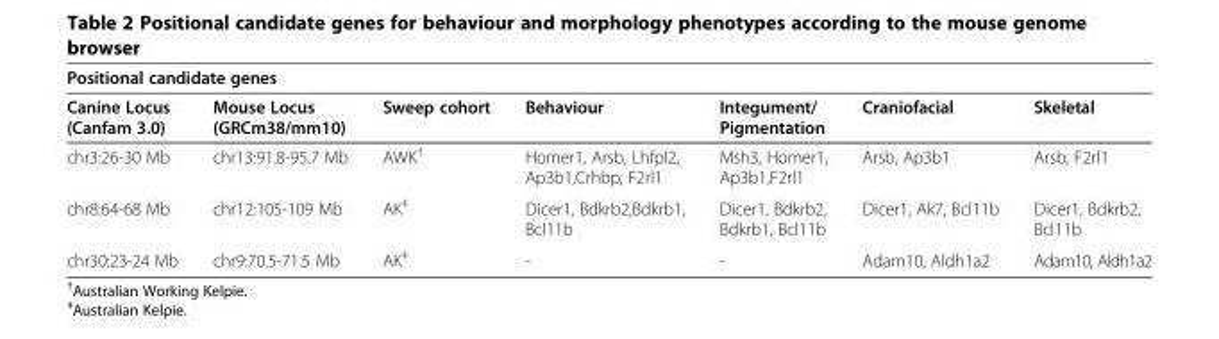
<table><thead><tr><td colspan="7">Positional candidate genes</td></tr><tr><td>Canine Locus (Canfam 3.0)</td><td>Mouse Locus (GRCm38/mm10)</td><td>Sweep cohort</td><td>Behaviour</td><td>Integument/ Pigmentation</td><td>Craniofacial</td><td>Skeletal</td></tr></thead><tbody><tr><td>chr3:26-30 Mb</td><td>chr13:91.8-95.7 Mb</td><td>AWK<sup>†</sup></td><td>Homer1, Arsb, Lhfpl2, Ap3b1,Crhbp, F2rl1</td><td>Msh3, Homer1, Ap3b1,F2rl1</td><td>Arsb, Ap3b1</td><td>Arsb, F2rl1</td></tr><tr><td>chr8:64-68 Mb</td><td>chr12:105-109 Mb</td><td>AK<sup>‡</sup></td><td>Dicer1, Bdkrb2,Bdkrb1, Bcl11b</td><td>Dicer1, Bdkrb2, Bdkrb1, Bcl11b</td><td>Dicer1, Ak7, Bcl11b</td><td>Dicer1, Bdkrb2, Bcl11b</td></tr><tr><td>chr30:23-24 Mb</td><td>chr9:70.5-71.5 Mb</td><td>AK<sup>‡</sup></td><td>-</td><td>-</td><td>Adam10, Aldh1a2</td><td>Adam10, Aldh1a2</td></tr></tbody></table>